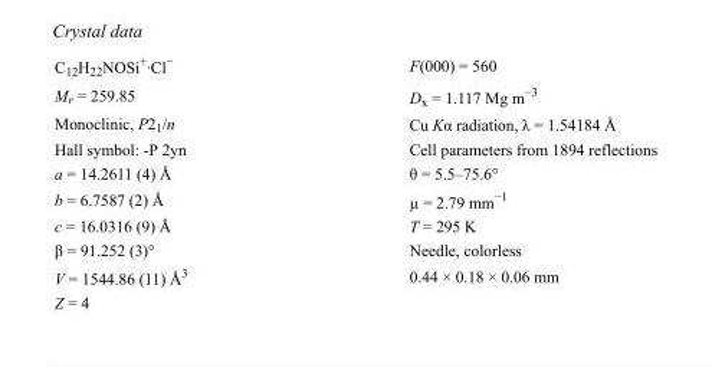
<table><tbody><tr><td>C<sub>12</sub>H<sub>22</sub>NOSi<sup>+</sup>·Cl<sup>−</sup></td><td>F(000) = 560</td></tr><tr><td>M<sub>r</sub> = 259.85</td><td>D<sub>x</sub> = 1.117 Mg m<sup>−3</sup></td></tr><tr><td>Monoclinic, P2<sub>1</sub>/n</td><td>Cu Kα radiation, λ = 1.54184 Å</td></tr><tr><td>Hall symbol: -P 2yn</td><td>Cell parameters from 1894 reflections</td></tr><tr><td>a = 14.2611 (4) Å</td><td>θ = 5.5–75.6°</td></tr><tr><td>b = 6.7587 (2) Å</td><td>µ = 2.79 mm<sup>−1</sup></td></tr><tr><td>c = 16.0316 (9) Å</td><td>T = 295 K</td></tr><tr><td>β = 91.252 (3)°</td><td>Needle, colorless</td></tr><tr><td>V = 1544.86 (11) Å<sup>3</sup></td><td>0.44 × 0.18 × 0.06 mm</td></tr><tr><td>Z = 4</td><td></td></tr></tbody></table>